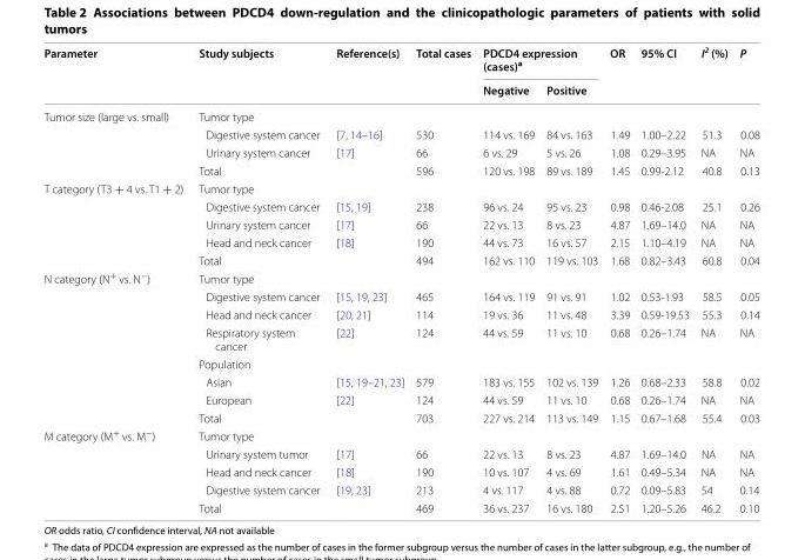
<table><thead><tr><td rowspan="2">Parameter</td><td rowspan="2">Study subjects</td><td rowspan="2">Reference(s)</td><td rowspan="2">Total cases</td><td colspan="2">PDCD4 expression (cases)<sup>a</sup></td><td rowspan="2">OR</td><td rowspan="2">95% CI</td><td rowspan="2">I<sup>2</sup> (%)</td><td rowspan="2">P</td></tr><tr><td>Negative</td><td>Positive</td></tr></thead><tbody><tr><td rowspan="4">Tumor size (large vs. small)</td><td colspan="9">Tumor type</td></tr><tr><td>Digestive system cancer</td><td>[7, 14–16]</td><td>530</td><td>114 vs. 169</td><td>84 vs. 163</td><td>1.49</td><td>1.00–2.22</td><td>51.3</td><td>0.08</td></tr><tr><td>Urinary system cancer</td><td>[17]</td><td>66</td><td>6 vs. 29</td><td>5 vs. 26</td><td>1.08</td><td>0.29–3.95</td><td>NA</td><td>NA</td></tr><tr><td>Total</td><td></td><td>596</td><td>120 vs. 198</td><td>89 vs. 189</td><td>1.45</td><td>0.99‑2.12</td><td>40.8</td><td>0.13</td></tr><tr><td rowspan="5">T category (T3 + 4 vs. T1 + 2)</td><td colspan="9">Tumor type</td></tr><tr><td>Digestive system cancer</td><td>[15, 19]</td><td>238</td><td>96 vs. 24</td><td>95 vs. 23</td><td>0.98</td><td>0.46‑2.08</td><td>25.1</td><td>0.26</td></tr><tr><td>Urinary system cancer</td><td>[17]</td><td>66</td><td>22 vs. 13</td><td>8 vs. 23</td><td>4.87</td><td>1.69–14.0</td><td>NA</td><td>NA</td></tr><tr><td>Head and neck cancer</td><td>[18]</td><td>190</td><td>44 vs. 73</td><td>16 vs. 57</td><td>2.15</td><td>1.10–4.19</td><td>NA</td><td>NA</td></tr><tr><td>Total</td><td></td><td>494</td><td>162 vs. 110</td><td>119 vs. 103</td><td>1.68</td><td>0.82–3.43</td><td>60.8</td><td>0.04</td></tr><tr><td rowspan="8">N category (N<sup>+</sup> vs. N<sup>−</sup>)</td><td colspan="9">Tumor type</td></tr><tr><td>Digestive system cancer</td><td>[15, 19, 23]</td><td>465</td><td>164 vs. 119</td><td>91 vs. 91</td><td>1.02</td><td>0.53‑1.93</td><td>58.5</td><td>0.05</td></tr><tr><td>Head and neck cancer</td><td>[20, 21]</td><td>114</td><td>19 vs. 36</td><td>11 vs. 48</td><td>3.39</td><td>0.59‑19.53</td><td>55.3</td><td>0.14</td></tr><tr><td>Respiratory system cancer</td><td>[22]</td><td>124</td><td>44 vs. 59</td><td>11 vs. 10</td><td>0.68</td><td>0.26–1.74</td><td>NA</td><td>NA</td></tr><tr><td colspan="9">Population</td></tr><tr><td>Asian</td><td>[15, 19–21, 23]</td><td>579</td><td>183 vs. 155</td><td>102 vs. 139</td><td>1.26</td><td>0.68–2.33</td><td>58.8</td><td>0.02</td></tr><tr><td>European</td><td>[22]</td><td>124</td><td>44 vs. 59</td><td>11 vs. 10</td><td>0.68</td><td>0.26–1.74</td><td>NA</td><td>NA</td></tr><tr><td>Total</td><td></td><td>703</td><td>227 vs. 214</td><td>113 vs. 149</td><td>1.15</td><td>0.67–1.68</td><td>55.4</td><td>0.03</td></tr><tr><td rowspan="5">M category (M<sup>+</sup> vs. M<sup>−</sup>)</td><td colspan="9">Tumor type</td></tr><tr><td>Urinary system tumor</td><td>[17]</td><td>66</td><td>22 vs. 13</td><td>8 vs. 23</td><td>4.87</td><td>1.69–14.0</td><td>NA</td><td>NA</td></tr><tr><td>Head and neck cancer</td><td>[18]</td><td>190</td><td>10 vs. 107</td><td>4 vs. 69</td><td>1.61</td><td>0.49–5.34</td><td>NA</td><td>NA</td></tr><tr><td>Digestive system cancer</td><td>[19, 23]</td><td>213</td><td>4 vs. 117</td><td>4 vs. 88</td><td>0.72</td><td>0.09–5.83</td><td>54</td><td>0.14</td></tr><tr><td>Total</td><td></td><td>469</td><td>36 vs. 237</td><td>16 vs. 180</td><td>2.51</td><td>1.20–5.26</td><td>46.2</td><td>0.10</td></tr></tbody></table>